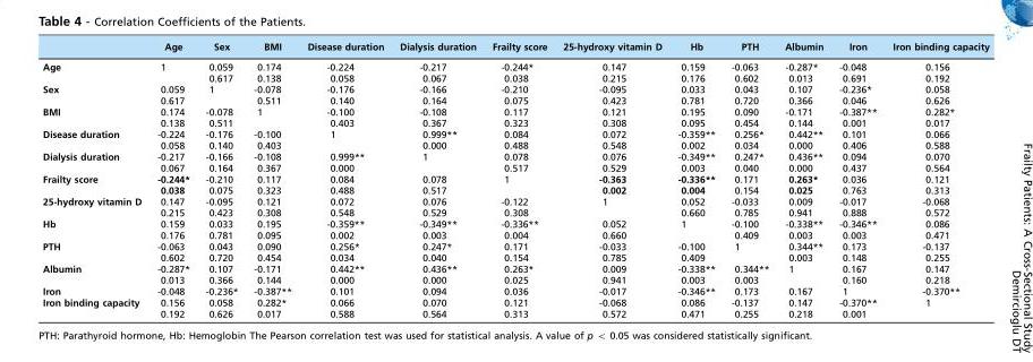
<table><thead><tr><td></td><td>Age</td><td>Sex</td><td>BMI</td><td>Disease duration</td><td>Dialysis duration</td><td>Frailty score</td><td>25-hydroxy vitamin D</td><td>Hb</td><td>PTH</td><td>Albumin</td><td>Iron</td><td>Iron binding capacity</td></tr></thead><tbody><tr><td rowspan="2">Age</td><td>1</td><td>0.059</td><td>0.174</td><td>-0.224</td><td>-0.217</td><td>-0.244*</td><td>0.147</td><td>0.159</td><td>-0.063</td><td>-0.287*</td><td>-0.048</td><td>0.156</td></tr><tr><td></td><td>0.617</td><td>0.138</td><td>0.058</td><td>0.067</td><td>0.038</td><td>0.215</td><td>0.176</td><td>0.602</td><td>0.013</td><td>0.691</td><td>0.192</td></tr><tr><td rowspan="2">Sex</td><td>0.059</td><td>1</td><td>-0.078</td><td>-0.176</td><td>-0.166</td><td>-0.210</td><td>-0.095</td><td>0.033</td><td>0.043</td><td>0.107</td><td>-0.236*</td><td>0.058</td></tr><tr><td>0.617</td><td></td><td>0.511</td><td>0.140</td><td>0.164</td><td>0.075</td><td>0.423</td><td>0.781</td><td>0.720</td><td>0.366</td><td>0.046</td><td>0.626</td></tr><tr><td rowspan="2">BMI</td><td>0.174</td><td>-0.078</td><td>1</td><td>-0.100</td><td>-0.108</td><td>0.117</td><td>0.121</td><td>0.195</td><td>0.090</td><td>-0.171</td><td>-0.387**</td><td>0.282*</td></tr><tr><td>0.138</td><td>0.511</td><td></td><td>0.403</td><td>0.367</td><td>0.323</td><td>0.308</td><td>0.095</td><td>0.454</td><td>0.144</td><td>0.001</td><td>0.017</td></tr><tr><td rowspan="2">Disease duration</td><td>-0.224</td><td>-0.176</td><td>-0.100</td><td>1</td><td>0.999**</td><td>0.084</td><td>0.072</td><td>-0.359**</td><td>0.256*</td><td>0.442**</td><td>0.101</td><td>0.066</td></tr><tr><td>0.058</td><td>0.140</td><td>0.403</td><td></td><td>0.000</td><td>0.488</td><td>0.548</td><td>0.002</td><td>0.034</td><td>0.000</td><td>0.406</td><td>0.588</td></tr><tr><td rowspan="2">Dialysis duration</td><td>-0.217</td><td>-0.166</td><td>-0.108</td><td>0.999**</td><td>1</td><td>0.078</td><td>0.076</td><td>-0.349**</td><td>0.247*</td><td>0.436**</td><td>0.094</td><td>0.070</td></tr><tr><td>0.067</td><td>0.164</td><td>0.367</td><td>0.000</td><td></td><td>0.517</td><td>0.529</td><td>0.003</td><td>0.040</td><td>0.000</td><td>0.437</td><td>0.564</td></tr><tr><td rowspan="2">Frailty score</td><td>-0.244*</td><td>-0.210</td><td>0.117</td><td>0.084</td><td>0.078</td><td>1</td><td>-0.363</td><td>-0.336**</td><td>0.171</td><td>0.263*</td><td>0.036</td><td>0.121</td></tr><tr><td>0.038</td><td>0.075</td><td>0.323</td><td>0.488</td><td>0.517</td><td></td><td>0.002</td><td>0.004</td><td>0.154</td><td>0.025</td><td>0.763</td><td>0.313</td></tr><tr><td rowspan="2">25-hydroxy vitamin D</td><td>0.147</td><td>-0.095</td><td>0.121</td><td>0.072</td><td>0.076</td><td>-0.122</td><td>1</td><td>0.052</td><td>-0.033</td><td>0.009</td><td>-0.017</td><td>-0.068</td></tr><tr><td>0.215</td><td>0.423</td><td>0.308</td><td>0.548</td><td>0.529</td><td>0.308</td><td></td><td>0.660</td><td>0.785</td><td>0.941</td><td>0.888</td><td>0.572</td></tr><tr><td rowspan="2">Hb</td><td>0.159</td><td>0.033</td><td>0.195</td><td>-0.359**</td><td>-0.349**</td><td>-0.336**</td><td>0.052</td><td>1</td><td>-0.100</td><td>-0.338**</td><td>-0.346**</td><td>0.086</td></tr><tr><td>0.176</td><td>0.781</td><td>0.095</td><td>0.002</td><td>0.003</td><td>0.004</td><td>0.660</td><td></td><td>0.409</td><td>0.003</td><td>0.003</td><td>0.471</td></tr><tr><td rowspan="2">PTH</td><td>-0.063</td><td>0.043</td><td>0.090</td><td>0.256*</td><td>0.247*</td><td>0.171</td><td>-0.033</td><td>-0.100</td><td>1</td><td>0.344**</td><td>0.173</td><td>-0.137</td></tr><tr><td>0.602</td><td>0.720</td><td>0.454</td><td>0.034</td><td>0.040</td><td>0.154</td><td>0.785</td><td>0.409</td><td></td><td>0.003</td><td>0.148</td><td>0.255</td></tr><tr><td rowspan="2">Albumin</td><td>-0.287*</td><td>0.107</td><td>-0.171</td><td>0.442**</td><td>0.436**</td><td>0.263*</td><td>0.009</td><td>-0.338**</td><td>0.344**</td><td>1</td><td>0.167</td><td>0.147</td></tr><tr><td>0.013</td><td>0.366</td><td>0.144</td><td>0.000</td><td>0.000</td><td>0.025</td><td>0.941</td><td>0.003</td><td>0.003</td><td></td><td>0.160</td><td>0.218</td></tr><tr><td>Iron</td><td>-0.048</td><td>-0.236*</td><td>-0.387**</td><td>0.101</td><td>0.094</td><td>0.036</td><td>-0.017</td><td>-0.346**</td><td>0.173</td><td>0.167</td><td>1</td><td>-0.370**</td></tr><tr><td rowspan="2">Iron binding capacity</td><td>0.156</td><td>0.058</td><td>0.282*</td><td>0.066</td><td>0.070</td><td>0.121</td><td>-0.068</td><td>0.086</td><td>-0.137</td><td>0.147</td><td>-0.370**</td><td>1</td></tr><tr><td>0.192</td><td>0.626</td><td>0.017</td><td>0.588</td><td>0.564</td><td>0.313</td><td>0.572</td><td>0.471</td><td>0.255</td><td>0.218</td><td>0.001</td><td></td></tr></tbody></table>